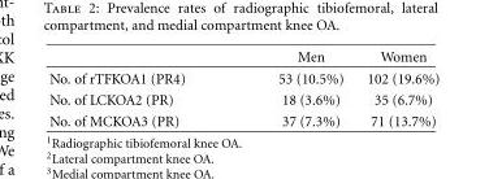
<table><thead><tr><td></td><td>Men</td><td>Women</td></tr></thead><tbody><tr><td>No. of rTFKOA1 (PR4)</td><td>53 (10.5%)</td><td>102 (19.6%)</td></tr><tr><td>No. of LCKOA2 (PR)</td><td>18 (3.6%)</td><td>35 (6.7%)</td></tr><tr><td>No. of MCKOA3 (PR)</td><td>37 (7.3%)</td><td>71 (13.7%)</td></tr></tbody></table>